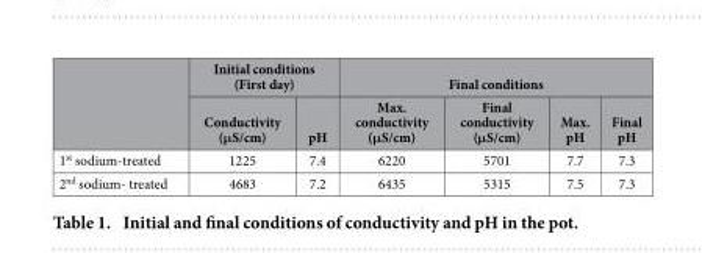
<table><thead><tr><td rowspan="2"></td><td colspan="2">Initial conditions (First day)</td><td colspan="4">Final conditions</td></tr><tr><td>Conductivity (μS/cm)</td><td>pH</td><td>Max. conductivity (μS/cm)</td><td>Final conductivity (μS/cm)</td><td>Max. pH</td><td>Final pH</td></tr></thead><tbody><tr><td>1<sup>st</sup> sodium-treated</td><td>1225</td><td>7.4</td><td>6220</td><td>5701</td><td>7.7</td><td>7.3</td></tr><tr><td>2<sup>nd</sup> sodium- treated</td><td>4683</td><td>7.2</td><td>6435</td><td>5315</td><td>7.5</td><td>7.3</td></tr></tbody></table>